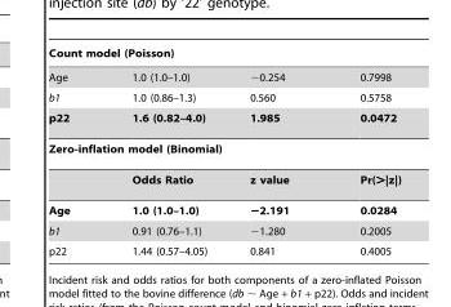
<table><thead><tr><td colspan="4">Count model (Poisson)</td></tr><tr><td>Age</td><td>1.0 (1.0–1.0)</td><td>−0.254</td><td>0.7998</td></tr></thead><tbody><tr><td>b1</td><td>1.0 (0.86–1.3)</td><td>0.560</td><td>0.5758</td></tr><tr><td>p22</td><td>1.6 (0.82–4.0)</td><td>1.985</td><td>0.0472</td></tr><tr><td colspan="4">Zero-inflation model (Binomial)</td></tr><tr><td></td><td>Odds Ratio</td><td>z value</td><td>Pr(&gt;|z|)</td></tr><tr><td>Age</td><td>1.0 (1.0–1.0)</td><td>−2.191</td><td>0.0284</td></tr><tr><td>b1</td><td>0.91 (0.76–1.1)</td><td>−1.280</td><td>0.2005</td></tr><tr><td>p22</td><td>1.44 (0.57–4.05)</td><td>0.841</td><td>0.4005</td></tr></tbody></table>